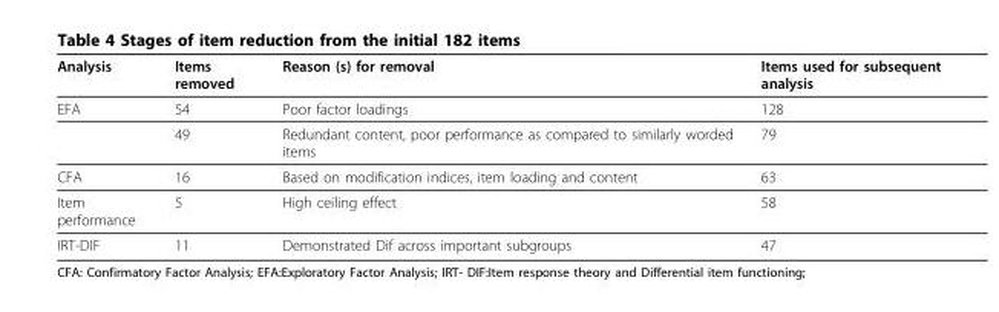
<table><thead><tr><td>Analysis</td><td>Items removed</td><td>Reason (s) for removal</td><td>Items used for subsequent analysis</td></tr></thead><tbody><tr><td rowspan="2">EFA</td><td>54</td><td>Poor factor loadings</td><td>128</td></tr><tr><td>49</td><td>Redundant content, poor performance as compared to similarly worded items</td><td>79</td></tr><tr><td>CFA</td><td>16</td><td>Based on modification indices, item loading and content</td><td>63</td></tr><tr><td>Item performance</td><td>5</td><td>High ceiling effect</td><td>58</td></tr><tr><td>IRT-DIF</td><td>11</td><td>Demonstrated Dif across important subgroups</td><td>47</td></tr></tbody></table>